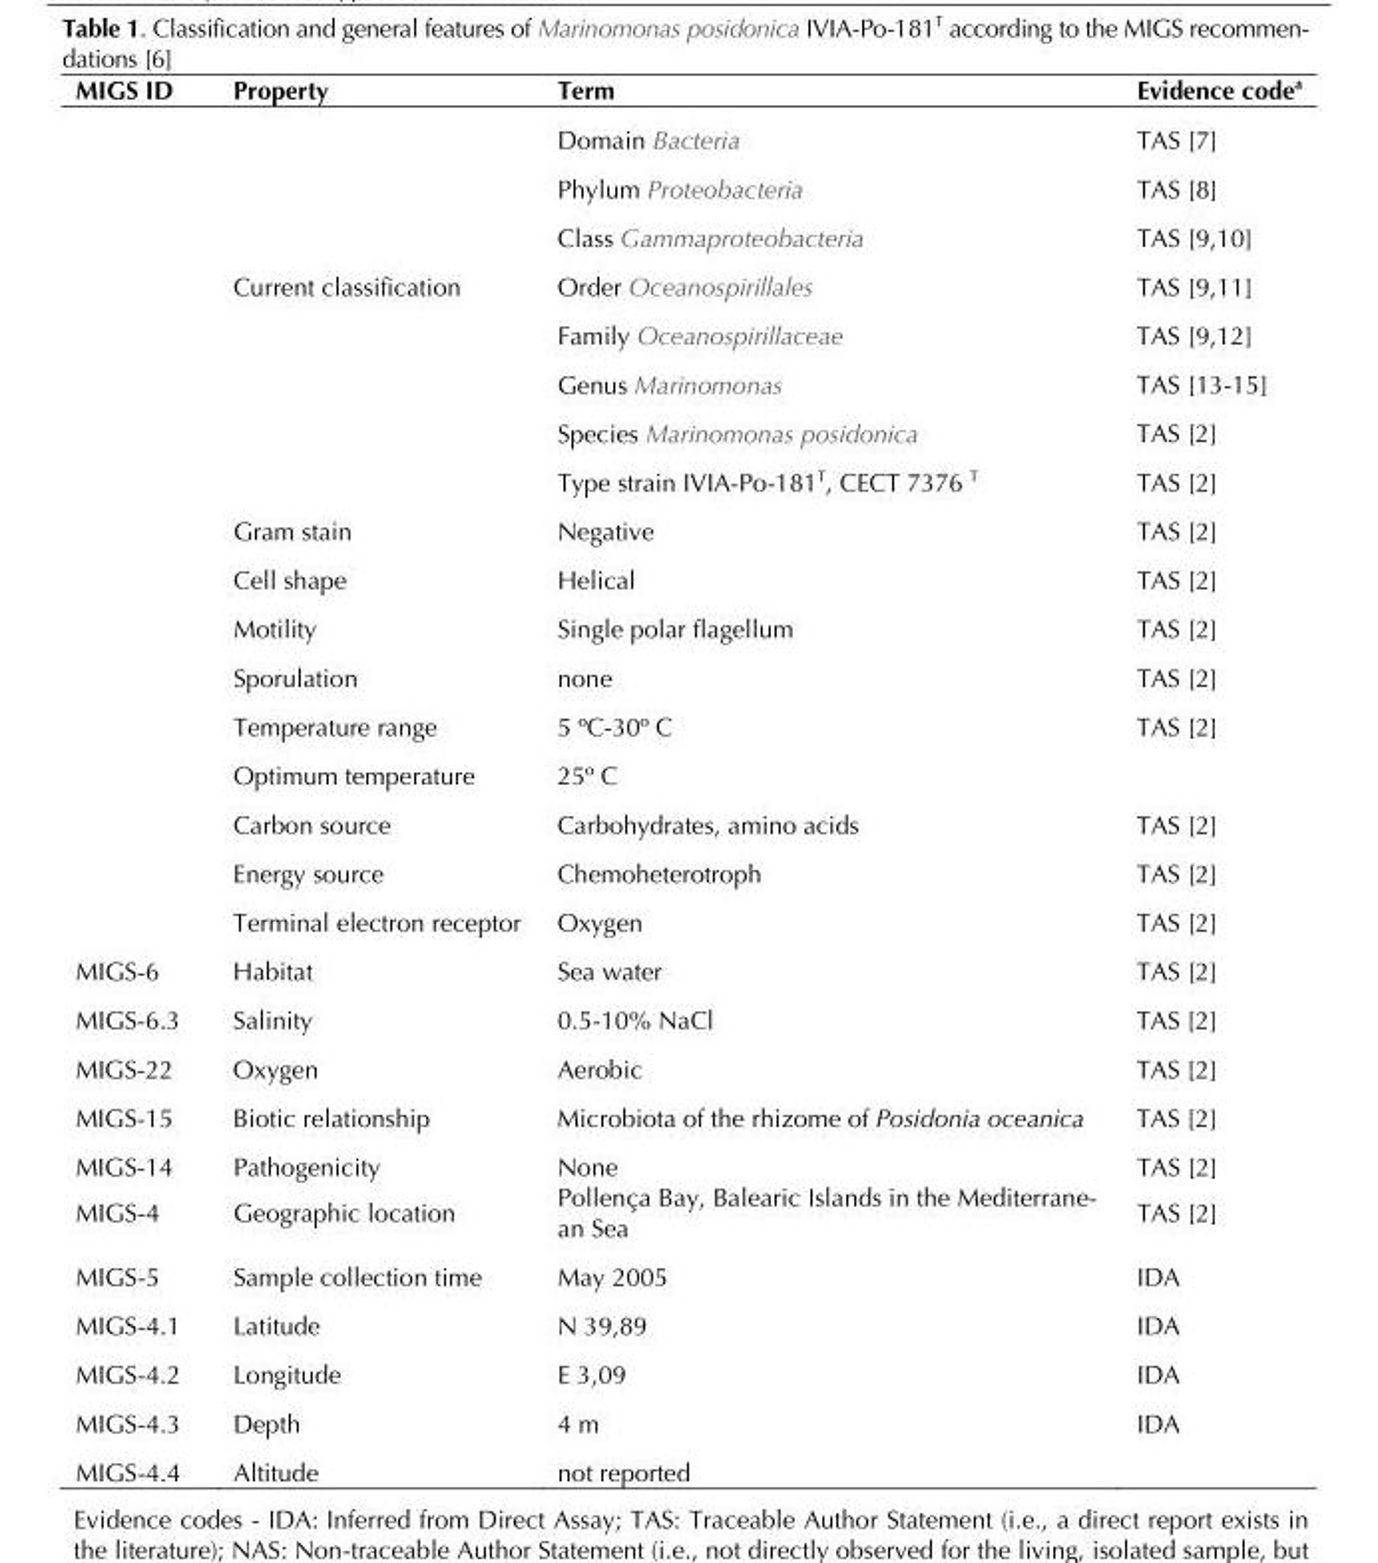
<table><thead><tr><td>MIGS ID</td><td>Property</td><td>Term</td><td>Evidence code<sup>a</sup></td></tr></thead><tbody><tr><td></td><td></td><td>Domain Bacteria</td><td>TAS [7]</td></tr><tr><td></td><td></td><td>Phylum Proteobacteria</td><td>TAS [8]</td></tr><tr><td></td><td></td><td>Class Gammaproteobacteria</td><td>TAS [9,10]</td></tr><tr><td></td><td>Current classification</td><td>Order Oceanospirillales</td><td>TAS [9,11]</td></tr><tr><td></td><td></td><td>Family Oceanospirillaceae</td><td>TAS [9,12]</td></tr><tr><td></td><td></td><td>Genus Marinomonas</td><td>TAS [13-15]</td></tr><tr><td></td><td></td><td>Species Marinomonas posidonica</td><td>TAS [2]</td></tr><tr><td></td><td></td><td>Type strain IVIA-Po-181<sup>T</sup>, CECT 7376 <sup>T</sup></td><td>TAS [2]</td></tr><tr><td></td><td>Gram stain</td><td>Negative</td><td>TAS [2]</td></tr><tr><td></td><td>Cell shape</td><td>Helical</td><td>TAS [2]</td></tr><tr><td></td><td>Motility</td><td>Single polar flagellum</td><td>TAS [2]</td></tr><tr><td></td><td>Sporulation</td><td>none</td><td>TAS [2]</td></tr><tr><td></td><td>Temperature range</td><td>5 ºC-30º C</td><td>TAS [2]</td></tr><tr><td></td><td>Optimum temperature</td><td>25º C</td><td></td></tr><tr><td></td><td>Carbon source</td><td>Carbohydrates, amino acids</td><td>TAS [2]</td></tr><tr><td></td><td>Energy source</td><td>Chemoheterotroph</td><td>TAS [2]</td></tr><tr><td></td><td>Terminal electron receptor</td><td>Oxygen</td><td>TAS [2]</td></tr><tr><td>MIGS-6</td><td>Habitat</td><td>Sea water</td><td>TAS [2]</td></tr><tr><td>MIGS-6.3</td><td>Salinity</td><td>0.5-10% NaCl</td><td>TAS [2]</td></tr><tr><td>MIGS-22</td><td>Oxygen</td><td>Aerobic</td><td>TAS [2]</td></tr><tr><td>MIGS-15</td><td>Biotic relationship</td><td>Microbiota of the rhizome of Posidonia oceanica</td><td>TAS [2]</td></tr><tr><td>MIGS-14</td><td>Pathogenicity</td><td>None</td><td>TAS [2]</td></tr><tr><td>MIGS-4</td><td>Geographic location</td><td>Pollença Bay, Balearic Islands in the Mediterrane- an Sea</td><td>TAS [2]</td></tr><tr><td>MIGS-5</td><td>Sample collection time</td><td>May 2005</td><td>IDA</td></tr><tr><td>MIGS-4.1</td><td>Latitude</td><td>N 39,89</td><td>IDA</td></tr><tr><td>MIGS-4.2</td><td>Longitude</td><td>E 3,09</td><td>IDA</td></tr><tr><td>MIGS-4.3</td><td>Depth</td><td>4 m</td><td>IDA</td></tr><tr><td>MIGS-4.4</td><td>Altitude</td><td>not reported</td><td></td></tr></tbody></table>